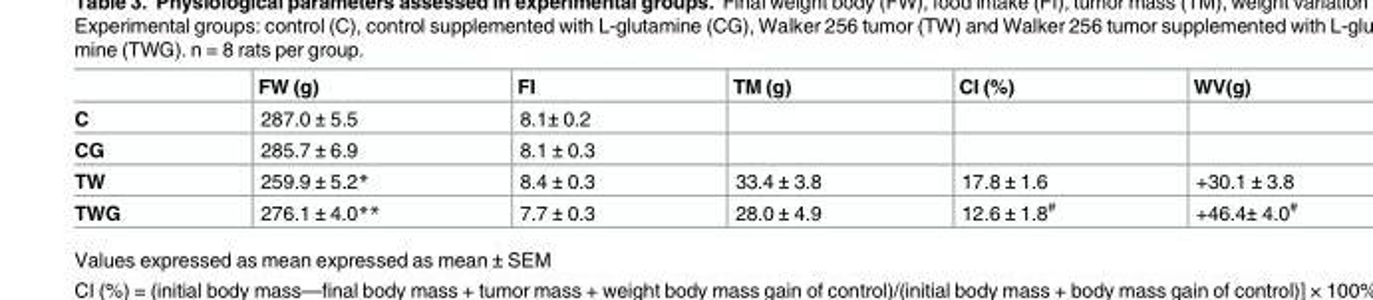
<table><thead><tr><td></td><td>FW (g)</td><td>FI</td><td>TM (g)</td><td>CI (%)</td><td>WV(g)</td></tr></thead><tbody><tr><td>C</td><td>287.0 ± 5.5</td><td>8.1± 0.2</td><td></td><td></td><td></td></tr><tr><td>CG</td><td>285.7 ± 6.9</td><td>8.1 ± 0.3</td><td></td><td></td><td></td></tr><tr><td>TW</td><td>259.9 ± 5.2*</td><td>8.4 ± 0.3</td><td>33.4 ± 3.8</td><td>17.8 ± 1.6</td><td>+30.1 ± 3.8</td></tr><tr><td>TWG</td><td>276.1 ± 4.0**</td><td>7.7 ± 0.3</td><td>28.0 ± 4.9</td><td>12.6 ± 1.8<sup>#</sup></td><td>+46.4± 4.0<sup>#</sup></td></tr></tbody></table>